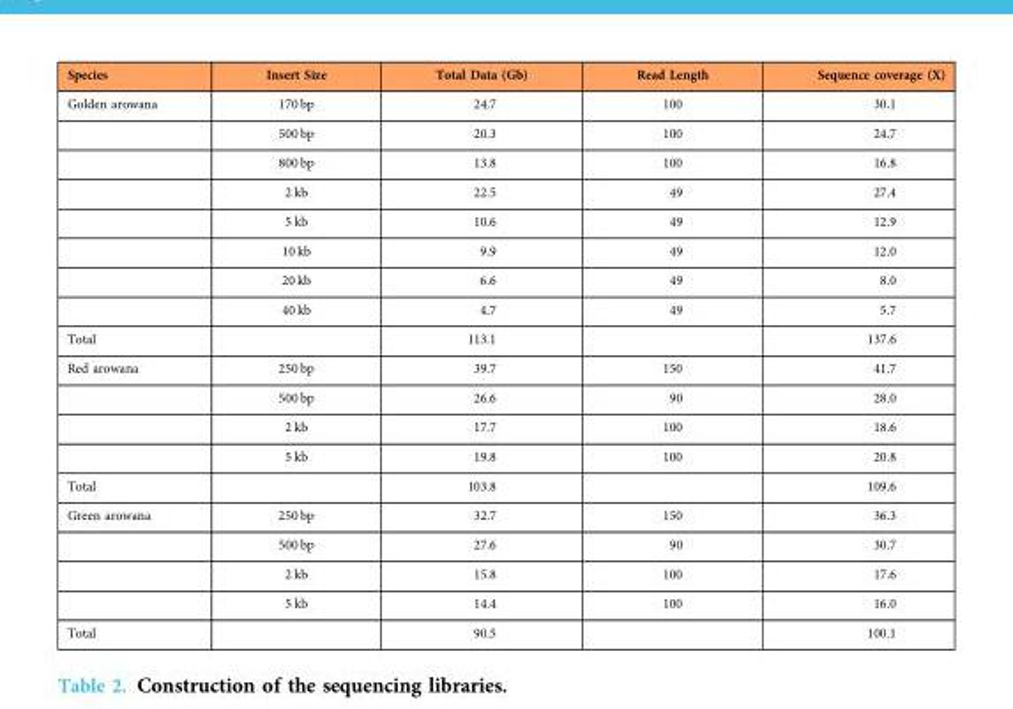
<table><thead><tr><td>Species</td><td>Insert Size</td><td>Total Data (Gb)</td><td>Read Length</td><td>Sequence coverage (X)</td></tr></thead><tbody><tr><td rowspan="8">Golden arowana</td><td>170 bp</td><td>24.7</td><td>100</td><td>30.1</td></tr><tr><td>500 bp</td><td>20.3</td><td>100</td><td>24.7</td></tr><tr><td>800 bp</td><td>13.8</td><td>100</td><td>16.8</td></tr><tr><td>2 kb</td><td>22.5</td><td>49</td><td>27.4</td></tr><tr><td>5 kb</td><td>10.6</td><td>49</td><td>12.9</td></tr><tr><td>10 kb</td><td>9.9</td><td>49</td><td>12.0</td></tr><tr><td>20 kb</td><td>6.6</td><td>49</td><td>8.0</td></tr><tr><td>40 kb</td><td>4.7</td><td>49</td><td>5.7</td></tr><tr><td>Total</td><td></td><td>113.1</td><td></td><td>137.6</td></tr><tr><td rowspan="4">Red arowana</td><td>250 bp</td><td>39.7</td><td>150</td><td>41.7</td></tr><tr><td>500 bp</td><td>26.6</td><td>90</td><td>28.0</td></tr><tr><td>2 kb</td><td>17.7</td><td>100</td><td>18.6</td></tr><tr><td>5 kb</td><td>19.8</td><td>100</td><td>20.8</td></tr><tr><td>Total</td><td></td><td>103.8</td><td></td><td>109.6</td></tr><tr><td rowspan="4">Green arowana</td><td>250 bp</td><td>32.7</td><td>150</td><td>36.3</td></tr><tr><td>500 bp</td><td>27.6</td><td>90</td><td>30.7</td></tr><tr><td>2 kb</td><td>15.8</td><td>100</td><td>17.6</td></tr><tr><td>5 kb</td><td>14.4</td><td>100</td><td>16.0</td></tr><tr><td>Total</td><td></td><td>90.5</td><td></td><td>100.1</td></tr></tbody></table>